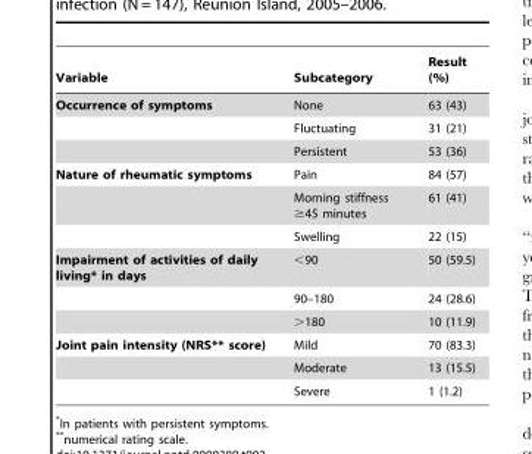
<table><thead><tr><td>Variable</td><td>Subcategory</td><td>Result (%)</td></tr></thead><tbody><tr><td rowspan="3">Occurrence of symptoms</td><td>None</td><td>63 (43)</td></tr><tr><td>Fluctuating</td><td>31 (21)</td></tr><tr><td>Persistent</td><td>53 (36)</td></tr><tr><td rowspan="3">Nature of rheumatic symptoms</td><td>Pain</td><td>84 (57)</td></tr><tr><td>Morning stiffness ≥45 minutes</td><td>61 (41)</td></tr><tr><td>Swelling</td><td>22 (15)</td></tr><tr><td rowspan="3">Impairment of activities of daily living* in days</td><td>&lt;90</td><td>50 (59.5)</td></tr><tr><td>90–180</td><td>24 (28.6)</td></tr><tr><td>&gt;180</td><td>10 (11.9)</td></tr><tr><td rowspan="3">Joint pain intensity (NRS** score)</td><td>Mild</td><td>70 (83.3)</td></tr><tr><td>Moderate</td><td>13 (15.5)</td></tr><tr><td>Severe</td><td>1 (1.2)</td></tr></tbody></table>